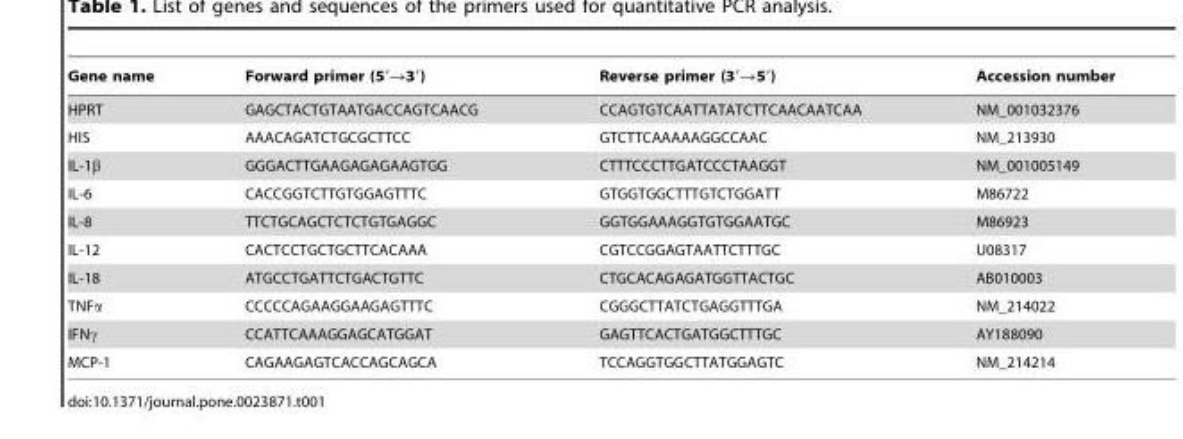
<table><thead><tr><td>Gene name</td><td>Forward primer (5′→3′)</td><td>Reverse primer (3′→5′)</td><td>Accession number</td></tr></thead><tbody><tr><td>HPRT</td><td>GAGCTACTGTAATGACCAGTCAACG</td><td>CCAGTGTCAATTATATCTTCAACAATCAA</td><td>NM_001032376</td></tr><tr><td>HIS</td><td>AAACAGATCTGCGCTTCC</td><td>GTCTTCAAAAAGGCCAAC</td><td>NM_213930</td></tr><tr><td>IL-1β</td><td>GGGACTTGAAGAGAGAAGTGG</td><td>CTTTCCCTTGATCCCTAAGGT</td><td>NM_001005149</td></tr><tr><td>IL-6</td><td>CACCGGTCTTGTGGAGTTTC</td><td>GTGGTGGCTTTGTCTGGATT</td><td>M86722</td></tr><tr><td>IL-8</td><td>TTCTGCAGCTCTCTGTGAGGC</td><td>GGTGGAAAGGTGTGGAATGC</td><td>M86923</td></tr><tr><td>IL-12</td><td>CACTCCTGCTGCTTCACAAA</td><td>CGTCCGGAGTAATTCTTTGC</td><td>U08317</td></tr><tr><td>IL-18</td><td>ATGCCTGATTCTGACTGTTC</td><td>CTGCACAGAGATGGTTACTGC</td><td>AB010003</td></tr><tr><td>TNFα</td><td>CCCCCAGAAGGAAGAGTTTC</td><td>CGGGCTTATCTGAGGTTTGA</td><td>NM_214022</td></tr><tr><td>IFNγ</td><td>CCATTCAAAGGAGCATGGAT</td><td>GAGTTCACTGATGGCTTTGC</td><td>AY188090</td></tr><tr><td>MCP-1</td><td>CAGAAGAGTCACCAGCAGCA</td><td>TCCAGGTGGCTTATGGAGTC</td><td>NM_214214</td></tr></tbody></table>